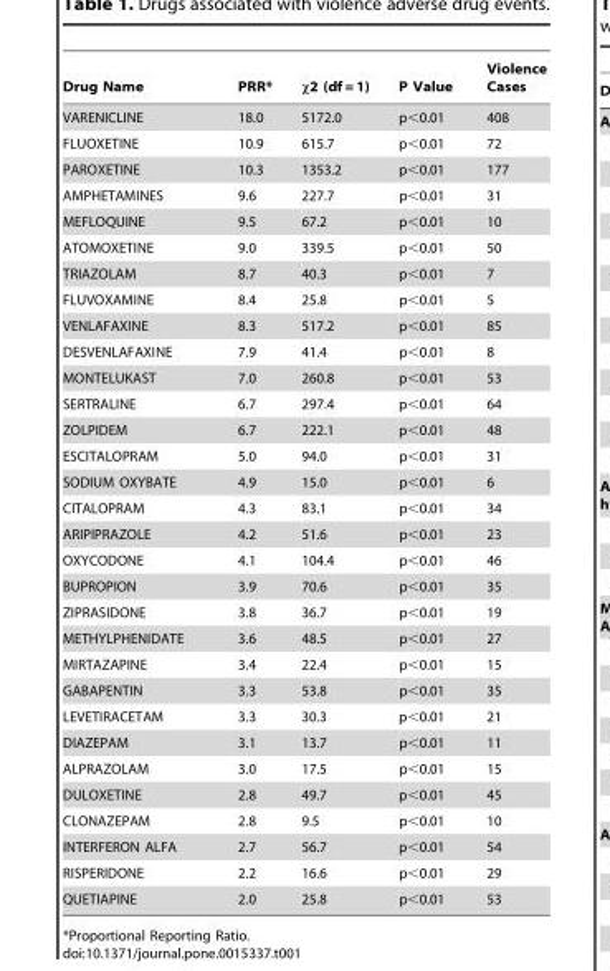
<table><thead><tr><td>Drug Name</td><td>PRR*</td><td>x2 (df = 1)</td><td>P Value</td><td>Violence Cases</td></tr></thead><tbody><tr><td>VARENICLINE</td><td>18.0</td><td>5172.0</td><td>p&lt;0.01</td><td>408</td></tr><tr><td>FLUOXETINE</td><td>10.9</td><td>615.7</td><td>p&lt;0.01</td><td>72</td></tr><tr><td>PAROXETINE</td><td>10.3</td><td>1353.2</td><td>p&lt;0.01</td><td>177</td></tr><tr><td>AMPHETAMINES</td><td>9.6</td><td>227.7</td><td>p&lt;0.01</td><td>31</td></tr><tr><td>MEFLOQUINE</td><td>9.5</td><td>67.2</td><td>p&lt;0.01</td><td>10</td></tr><tr><td>ATOMOXETINE</td><td>9.0</td><td>339.5</td><td>p&lt;0.01</td><td>50</td></tr><tr><td>TRIAZOLAM</td><td>8.7</td><td>40.3</td><td>p&lt;0.01</td><td>7</td></tr><tr><td>FLUVOXAMINE</td><td>8.4</td><td>25.8</td><td>p&lt;0.01</td><td>5</td></tr><tr><td>VENLAFAXINE</td><td>8.3</td><td>517.2</td><td>p&lt;0.01</td><td>85</td></tr><tr><td>DESVENLAFAXINE</td><td>7.9</td><td>41.4</td><td>p&lt;0.01</td><td>8</td></tr><tr><td>MONTELUKAST</td><td>7.0</td><td>260.8</td><td>p&lt;0.01</td><td>53</td></tr><tr><td>SERTRALINE</td><td>6.7</td><td>297.4</td><td>p&lt;0.01</td><td>64</td></tr><tr><td>ZOLPIDEM</td><td>6.7</td><td>222.1</td><td>p&lt;0.01</td><td>48</td></tr><tr><td>ESCITALOPRAM</td><td>5.0</td><td>94.0</td><td>p&lt;0.01</td><td>31</td></tr><tr><td>SODIUM OXYBATE</td><td>4.9</td><td>15.0</td><td>p&lt;0.01</td><td>6</td></tr><tr><td>CITALOPRAM</td><td>4.3</td><td>83.1</td><td>p&lt;0.01</td><td>34</td></tr><tr><td>ARIPIPRAZOLE</td><td>4.2</td><td>51.6</td><td>p&lt;0.01</td><td>23</td></tr><tr><td>OXYCODONE</td><td>4.1</td><td>104.4</td><td>p&lt;0.01</td><td>46</td></tr><tr><td>BUPROPION</td><td>3.9</td><td>70.6</td><td>p&lt;0.01</td><td>35</td></tr><tr><td>ZIPRASIDONE</td><td>3.8</td><td>36.7</td><td>p&lt;0.01</td><td>19</td></tr><tr><td>METHYLPHENIDATE</td><td>3.6</td><td>48.5</td><td>p&lt;0.01</td><td>27</td></tr><tr><td>MIRTAZAPINE</td><td>3.4</td><td>22.4</td><td>p&lt;0.01</td><td>15</td></tr><tr><td>GABAPENTIN</td><td>3.3</td><td>53.8</td><td>p&lt;0.01</td><td>35</td></tr><tr><td>LEVETIRACETAM</td><td>3.3</td><td>30.3</td><td>p&lt;0.01</td><td>21</td></tr><tr><td>DIAZEPAM</td><td>3.1</td><td>13.7</td><td>p&lt;0.01</td><td>11</td></tr><tr><td>ALPRAZOLAM</td><td>3.0</td><td>17.5</td><td>p&lt;0.01</td><td>15</td></tr><tr><td>DULOXETINE</td><td>2.8</td><td>49.7</td><td>p&lt;0.01</td><td>45</td></tr><tr><td>CLONAZEPAM</td><td>2.8</td><td>9.5</td><td>p&lt;0.01</td><td>10</td></tr><tr><td>INTERFERON ALFA</td><td>2.7</td><td>56.7</td><td>p&lt;0.01</td><td>54</td></tr><tr><td>RISPERIDONE</td><td>2.2</td><td>16.6</td><td>p&lt;0.01</td><td>29</td></tr><tr><td>QUETIAPINE</td><td>2.0</td><td>25.8</td><td>p&lt;0.01</td><td>53</td></tr></tbody></table>